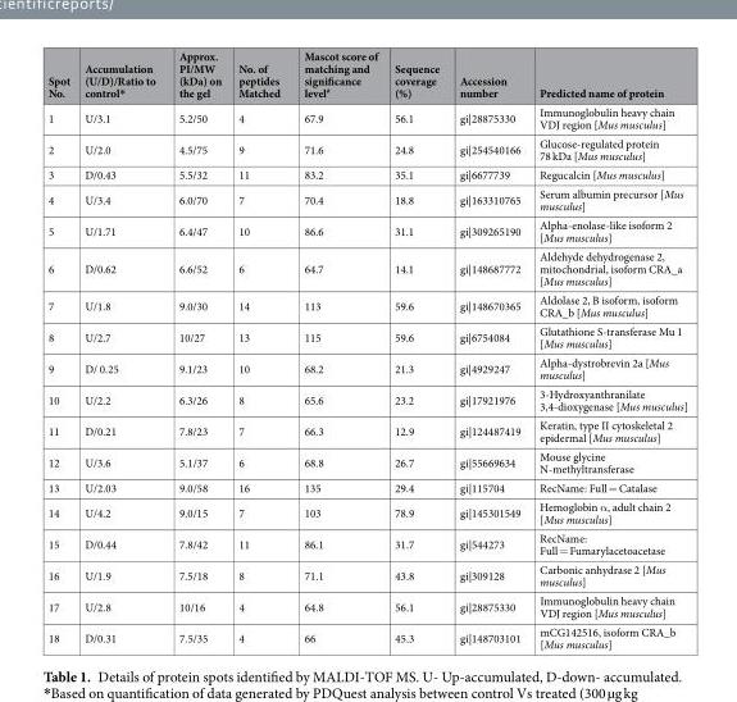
<table><thead><tr><td>Spot No.</td><td>Accumulation (U/D)/Ratio to control*</td><td>Approx. PI/MW (kDa) on the gel</td><td>No. of peptides Matched</td><td>Mascot score of matching and significance level<sup>#</sup></td><td>Sequence coverage (%)</td><td>Accession number</td><td>Predicted name of protein</td></tr></thead><tbody><tr><td>1</td><td>U/3.1</td><td>5.2/50</td><td>4</td><td>67.9</td><td>56.1</td><td>gi|28875330</td><td>Immunoglobulin heavy chain VDJ region [Mus musculus]</td></tr><tr><td>2</td><td>U/2.0</td><td>4.5/75</td><td>9</td><td>71.6</td><td>24.8</td><td>gi|254540166</td><td>Glucose-regulated protein 78 kDa [Mus musculus]</td></tr><tr><td>3</td><td>D/0.43</td><td>5.5/32</td><td>11</td><td>83.2</td><td>35.1</td><td>gi|6677739</td><td>Regucalcin [Mus musculus]</td></tr><tr><td>4</td><td>U/3.4</td><td>6.0/70</td><td>7</td><td>70.4</td><td>18.8</td><td>gi|163310765</td><td>Serum albumin precursor [Mus musculus]</td></tr><tr><td>5</td><td>U/1.71</td><td>6.4/47</td><td>10</td><td>86.6</td><td>31.1</td><td>gi|309265190</td><td>Alpha-enolase-like isoform 2 [Mus musculus]</td></tr><tr><td>6</td><td>D/0.62</td><td>6.6/52</td><td>6</td><td>64.7</td><td>14.1</td><td>gi|148687772</td><td>Aldehyde dehydrogenase 2, mitochondrial, isoform CRA_a [Mus musculus]</td></tr><tr><td>7</td><td>U/1.8</td><td>9.0/30</td><td>14</td><td>113</td><td>59.6</td><td>gi|148670365</td><td>Aldolase 2, B isoform, isoform CRA_b [Mus musculus]</td></tr><tr><td>8</td><td>U/2.7</td><td>10/27</td><td>13</td><td>115</td><td>59.6</td><td>gi|6754084</td><td>Glutathione S-transferase Mu 1 [Mus musculus]</td></tr><tr><td>9</td><td>D/ 0.25</td><td>9.1/23</td><td>10</td><td>68.2</td><td>21.3</td><td>gi|4929247</td><td>Alpha-dystrobrevin 2a [Mus musculus]</td></tr><tr><td>10</td><td>U/2.2</td><td>6.3/26</td><td>8</td><td>65.6</td><td>23.2</td><td>gi|17921976</td><td>3-Hydroxyanthranilate 3,4-dioxygenase [Mus musculus]</td></tr><tr><td>11</td><td>D/0.21</td><td>7.8/23</td><td>7</td><td>66.3</td><td>12.9</td><td>gi|124487419</td><td>Keratin, type II cytoskeletal 2 epidermal [Mus musculus]</td></tr><tr><td>12</td><td>U/3.6</td><td>5.1/37</td><td>6</td><td>68.8</td><td>26.7</td><td>gi|55669634</td><td>Mouse glycine N-methyltransferase</td></tr><tr><td>13</td><td>U/2.03</td><td>9.0/58</td><td>16</td><td>135</td><td>29.4</td><td>gi|115704</td><td>RecName: Full = Catalase</td></tr><tr><td>14</td><td>U/4.2</td><td>9.0/15</td><td>7</td><td>103</td><td>78.9</td><td>gi|145301549</td><td>Hemoglobin α, adult chain 2 [Mus musculus]</td></tr><tr><td>15</td><td>D/0.44</td><td>7.8/42</td><td>11</td><td>86.1</td><td>31.7</td><td>gi|544273</td><td>RecName: Full = Fumarylacetoacetase</td></tr><tr><td>16</td><td>U/1.9</td><td>7.5/18</td><td>8</td><td>71.1</td><td>43.8</td><td>gi|309128</td><td>Carbonic anhydrase 2 [Mus musculus]</td></tr><tr><td>17</td><td>U/2.8</td><td>10/16</td><td>4</td><td>64.8</td><td>56.1</td><td>gi|28875330</td><td>Immunoglobulin heavy chain VDJ region [Mus musculus]</td></tr><tr><td>18</td><td>D/0.31</td><td>7.5/35</td><td>4</td><td>66</td><td>45.3</td><td>gi|148703101</td><td>mCG142516, isoform CRA_b [Mus musculus]</td></tr></tbody></table>